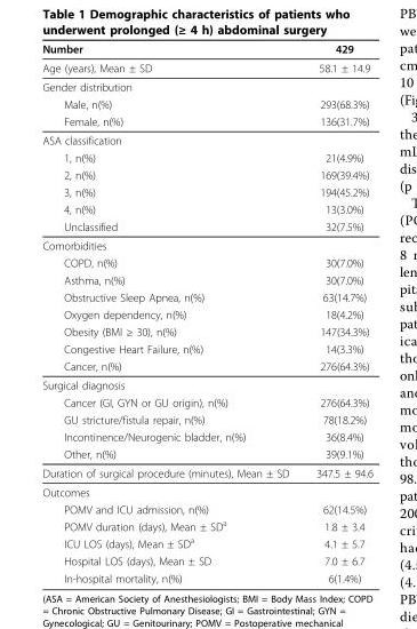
<table><thead><tr><td>Number</td><td>429</td></tr></thead><tbody><tr><td>Age (years), Mean ± SD</td><td>58.1 ± 14.9</td></tr><tr><td colspan="2">Gender distribution</td></tr><tr><td>Male, n(%)</td><td>293(68.3%)</td></tr><tr><td>Female, n(%)</td><td>136(31.7%)</td></tr><tr><td colspan="2">ASA classification</td></tr><tr><td>1, n(%)</td><td>21(4.9%)</td></tr><tr><td>2, n(%)</td><td>169(39.4%)</td></tr><tr><td>3, n(%)</td><td>194(45.2%)</td></tr><tr><td>4, n(%)</td><td>13(3.0%)</td></tr><tr><td>Unclassified</td><td>32(7.5%)</td></tr><tr><td colspan="2">Comorbidities</td></tr><tr><td>COPD, n(%)</td><td>30(7.0%)</td></tr><tr><td>Asthma, n(%)</td><td>30(7.0%)</td></tr><tr><td>Obstructive Sleep Apnea, n(%)</td><td>63(14.7%)</td></tr><tr><td>Oxygen dependency, n(%)</td><td>18(4.2%)</td></tr><tr><td>Obesity (BMI ≥ 30), n(%)</td><td>147(34.3%)</td></tr><tr><td>Congestive Heart Failure, n(%)</td><td>14(3.3%)</td></tr><tr><td>Cancer, n(%)</td><td>276(64.3%)</td></tr><tr><td colspan="2">Surgical diagnosis</td></tr><tr><td>Cancer (GI, GYN or GU origin), n(%)</td><td>276(64.3%)</td></tr><tr><td>GU stricture/fistula repair, n(%)</td><td>78(18.2%)</td></tr><tr><td>Incontinence/Neurogenic bladder, n(%)</td><td>36(8.4%)</td></tr><tr><td>Other, n(%)</td><td>39(9.1%)</td></tr><tr><td>Duration of surgical procedure (minutes), Mean ± SD</td><td>347.5 ± 94.6</td></tr><tr><td colspan="2">Outcomes</td></tr><tr><td>POMV and ICU admission, n(%)</td><td>62(14.5%)</td></tr><tr><td>POMV duration (days), Mean ± SD<sup>a</sup></td><td>1.8 ± 3.4</td></tr><tr><td>ICU LOS (days), Mean ± SD<sup>a</sup></td><td>4.1 ± 5.7</td></tr><tr><td>Hospital LOS (days), Mean ± SD</td><td>7.0 ± 6.7</td></tr><tr><td>In-hospital mortality, n(%)</td><td>6(1.4%)</td></tr></tbody></table>